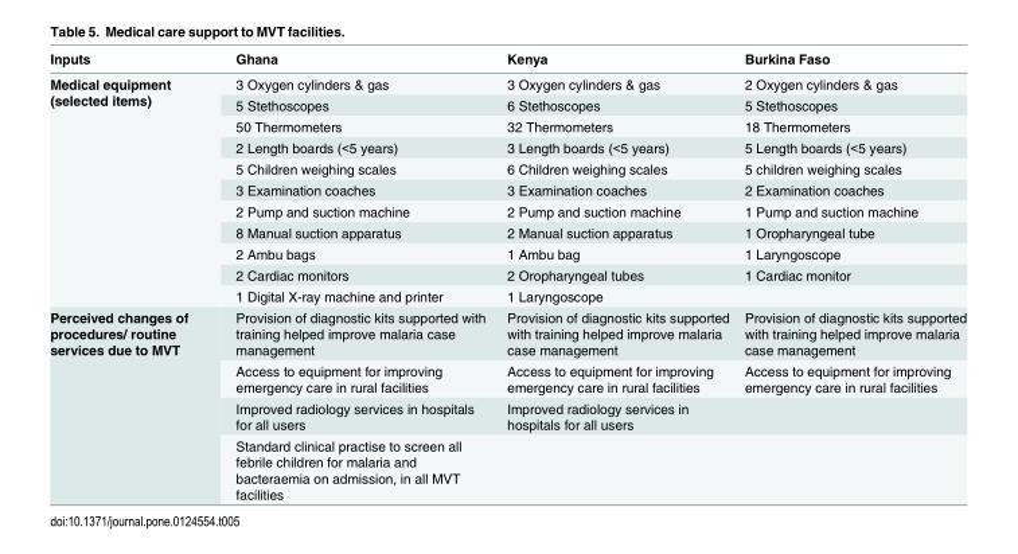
<table><thead><tr><td>Inputs</td><td>Ghana</td><td>Kenya</td><td>Burkina Faso</td></tr></thead><tbody><tr><td rowspan="11">Medical equipment (selected items)</td><td>3 Oxygen cylinders &amp; gas</td><td>3 Oxygen cylinders &amp; gas</td><td>2 Oxygen cylinders &amp; gas</td></tr><tr><td>5 Stethoscopes</td><td>6 Stethoscopes</td><td>5 Stethoscopes</td></tr><tr><td>50 Thermometers</td><td>32 Thermometers</td><td>18 Thermometers</td></tr><tr><td>2 Length boards (&lt;5 years)</td><td>3 Length boards (&lt;5 years)</td><td>5 Length boards (&lt;5 years)</td></tr><tr><td>5 Children weighing scales</td><td>6 Children weighing scales</td><td>5 children weighing scales</td></tr><tr><td>3 Examination coaches</td><td>3 Examination coaches</td><td>2 Examination coaches</td></tr><tr><td>2 Pump and suction machine</td><td>2 Pump and suction machine</td><td>1 Pump and suction machine</td></tr><tr><td>8 Manual suction apparatus</td><td>2 Manual suction apparatus</td><td>1 Oropharyngeal tube</td></tr><tr><td>2 Ambu bags</td><td>1 Ambu bag</td><td>1 Laryngoscope</td></tr><tr><td>2 Cardiac monitors</td><td>2 Oropharyngeal tubes</td><td>1 Cardiac monitor</td></tr><tr><td>1 Digital X-ray machine and printer</td><td>1 Laryngoscope</td><td></td></tr><tr><td rowspan="4">Perceived changes of procedures/ routine services due to MVT</td><td>Provision of diagnostic kits supported with training helped improve malaria case management</td><td>Provision of diagnostic kits supported with training helped improve malaria case management</td><td>Provision of diagnostic kits supported with training helped improve malaria case management</td></tr><tr><td>Access to equipment for improving emergency care in rural facilities</td><td>Access to equipment for improving emergency care in rural facilities</td><td>Access to equipment for improving emergency care in rural facilities</td></tr><tr><td>Improved radiology services in hospitals for all users</td><td>Improved radiology services in hospitals for all users</td><td></td></tr><tr><td>Standard clinical practise to screen all febrile children for malaria and bacteraemia on admission, in all MVT facilities</td><td></td><td></td></tr></tbody></table>